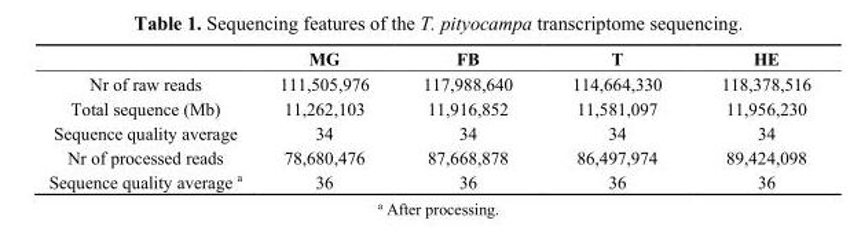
<table><thead><tr><td></td><td>MG</td><td>FB</td><td>T</td><td>HE</td></tr></thead><tbody><tr><td>Nr of raw reads</td><td>111,505,976</td><td>117,988,640</td><td>114,664,330</td><td>118,378,516</td></tr><tr><td>Total sequence (Mb)</td><td>11,262,103</td><td>11,916,852</td><td>11,581,097</td><td>11,956,230</td></tr><tr><td>Sequence quality average</td><td>34</td><td>34</td><td>34</td><td>34</td></tr><tr><td>Nr of processed reads</td><td>78,680,476</td><td>87,668,878</td><td>86,497,974</td><td>89,424,098</td></tr><tr><td>Sequence quality average <sup>a</sup></td><td>36</td><td>36</td><td>36</td><td>36</td></tr></tbody></table>